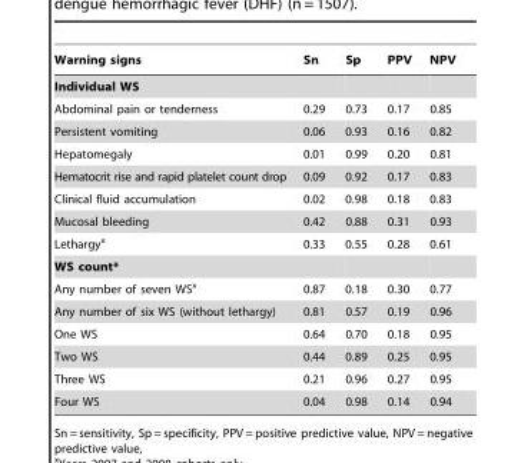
<table><thead><tr><td>Warning signs</td><td>Sn</td><td>Sp</td><td>PPV</td><td>NPV</td></tr></thead><tbody><tr><td colspan="5">Individual WS</td></tr><tr><td>Abdominal pain or tenderness</td><td>0.29</td><td>0.73</td><td>0.17</td><td>0.85</td></tr><tr><td>Persistent vomiting</td><td>0.06</td><td>0.93</td><td>0.16</td><td>0.82</td></tr><tr><td>Hepatomegaly</td><td>0.01</td><td>0.99</td><td>0.20</td><td>0.81</td></tr><tr><td>Hematocrit rise and rapid platelet count drop</td><td>0.09</td><td>0.92</td><td>0.17</td><td>0.83</td></tr><tr><td>Clinical fluid accumulation</td><td>0.02</td><td>0.98</td><td>0.18</td><td>0.83</td></tr><tr><td>Mucosal bleeding</td><td>0.42</td><td>0.88</td><td>0.31</td><td>0.93</td></tr><tr><td>Lethargy<sup>x</sup></td><td>0.33</td><td>0.55</td><td>0.28</td><td>0.61</td></tr><tr><td colspan="5">WS count*</td></tr><tr><td>Any number of seven WS<sup>x</sup></td><td>0.87</td><td>0.18</td><td>0.30</td><td>0.77</td></tr><tr><td>Any number of six WS (without lethargy)</td><td>0.81</td><td>0.57</td><td>0.19</td><td>0.96</td></tr><tr><td>One WS</td><td>0.64</td><td>0.70</td><td>0.18</td><td>0.95</td></tr><tr><td>Two WS</td><td>0.44</td><td>0.89</td><td>0.25</td><td>0.95</td></tr><tr><td>Three WS</td><td>0.21</td><td>0.96</td><td>0.27</td><td>0.95</td></tr><tr><td>Four WS</td><td>0.04</td><td>0.98</td><td>0.14</td><td>0.94</td></tr></tbody></table>